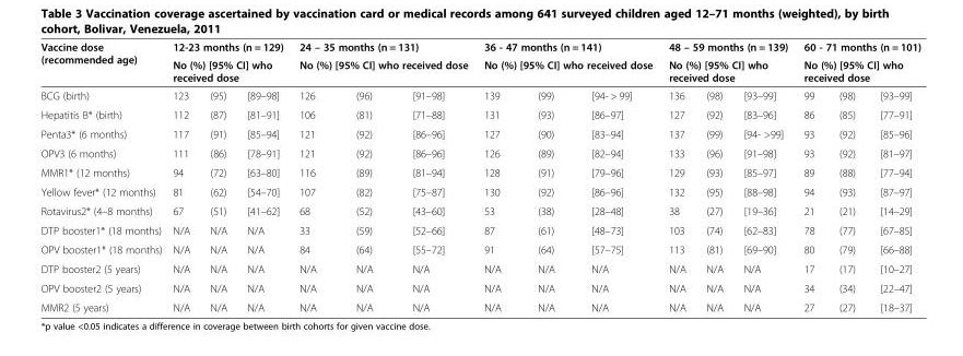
<table><thead><tr><td rowspan="3">Vaccine dose (recommended age) BCG (birth)</td><td rowspan="2" colspan="3">12-23 months (n = 129) No (%) [95% CI] who received dose</td><td rowspan="2" colspan="3">24 – 35 months (n = 131) No (%) [95% CI] who received dose</td><td rowspan="2" colspan="3">36 - 47 months (n = 141) No (%) [95% CI] who received dose</td><td rowspan="2" colspan="3">48 – 59 months (n = 139) No (%) [95% CI] who received dose</td><td rowspan="2" colspan="3">60 - 71 months (n = 101) No (%) [95% CI] who received dose</td></tr><tr></tr><tr><td>123</td><td>(95)</td><td>[89–98]</td><td>126</td><td>(96)</td><td>[91–98]</td><td>139</td><td>(99)</td><td>[94- &gt; 99]</td><td>136</td><td>(98)</td><td>[93–99]</td><td>99</td><td>(98)</td><td>[93–99]</td></tr></thead><tbody><tr><td>Hepatitis B* (birth)</td><td>112</td><td>(87)</td><td>[81–91]</td><td>106</td><td>(81)</td><td>[71–88]</td><td>131</td><td>(93)</td><td>[86–97]</td><td>127</td><td>(92)</td><td>[83–96]</td><td>86</td><td>(85)</td><td>[77–91]</td></tr><tr><td>Penta3* (6 months)</td><td>117</td><td>(91)</td><td>[85–94]</td><td>121</td><td>(92)</td><td>[86–96]</td><td>127</td><td>(90)</td><td>[83–94]</td><td>137</td><td>(99)</td><td>[94- &gt;99]</td><td>93</td><td>(92)</td><td>[85–96]</td></tr><tr><td>OPV3 (6 months)</td><td>111</td><td>(86)</td><td>[78–91]</td><td>121</td><td>(92)</td><td>[86–96]</td><td>126</td><td>(89)</td><td>[82–94]</td><td>133</td><td>(96)</td><td>[91–98]</td><td>93</td><td>(92)</td><td>[81–97]</td></tr><tr><td>MMR1* (12 months)</td><td>94</td><td>(72)</td><td>[63–80]</td><td>116</td><td>(89)</td><td>[81–94]</td><td>128</td><td>(91)</td><td>[79–96]</td><td>129</td><td>(93)</td><td>[85–97]</td><td>89</td><td>(88)</td><td>[77–94]</td></tr><tr><td>Yellow fever* (12 months)</td><td>81</td><td>(62)</td><td>[54–70]</td><td>107</td><td>(82)</td><td>[75–87]</td><td>130</td><td>(92)</td><td>[86–96]</td><td>132</td><td>(95)</td><td>[88–98]</td><td>94</td><td>(93)</td><td>[87–97]</td></tr><tr><td>Rotavirus2* (4–8 months)</td><td>67</td><td>(51)</td><td>[41–62]</td><td>68</td><td>(52)</td><td>[43–60]</td><td>53</td><td>(38)</td><td>[28–48]</td><td>38</td><td>(27)</td><td>[19–36]</td><td>21</td><td>(21)</td><td>[14–29]</td></tr><tr><td>DTP booster1* (18 months)</td><td>N/A</td><td>N/A</td><td>N/A</td><td>33</td><td>(59)</td><td>[52–66]</td><td>87</td><td>(61)</td><td>[48–73]</td><td>103</td><td>(74)</td><td>[62–83]</td><td>78</td><td>(77)</td><td>[67–85]</td></tr><tr><td>OPV booster1* (18 months)</td><td>N/A</td><td>N/A</td><td>N/A</td><td>84</td><td>(64)</td><td>[55–72]</td><td>91</td><td>(64)</td><td>[57–75]</td><td>113</td><td>(81)</td><td>[69–90]</td><td>80</td><td>(79)</td><td>[66–88]</td></tr><tr><td>DTP booster2 (5 years)</td><td>N/A</td><td>N/A</td><td>N/A</td><td>N/A</td><td>N/A</td><td>N/A</td><td>N/A</td><td>N/A</td><td>N/A</td><td>N/A</td><td>N/A</td><td>N/A</td><td>17</td><td>(17)</td><td>[10–27]</td></tr><tr><td>OPV booster2 (5 years)</td><td>N/A</td><td>N/A</td><td>N/A</td><td>N/A</td><td>N/A</td><td>N/A</td><td>N/A</td><td>N/A</td><td>N/A</td><td>N/A</td><td>N/A</td><td>N/A</td><td>34</td><td>(34)</td><td>[22–47]</td></tr><tr><td>MMR2 (5 years)</td><td>N/A</td><td>N/A</td><td>N/A</td><td>N/A</td><td>N/A</td><td>N/A</td><td>N/A</td><td>N/A</td><td>N/A</td><td>N/A</td><td>N/A</td><td>N/A</td><td>27</td><td>(27)</td><td>[18–37]</td></tr></tbody></table>